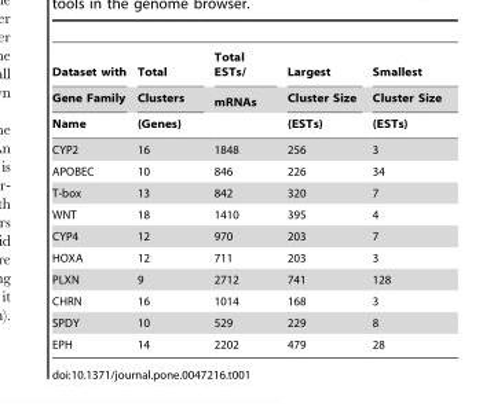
<table><thead><tr><td rowspan="3">Dataset with Gene Family Name</td><td rowspan="3">Total Clusters (Genes)</td><td rowspan="3">Total ESTs/ mRNAs</td><td rowspan="3">Largest Cluster Size (ESTs)</td><td rowspan="3">Smallest Cluster Size (ESTs)</td></tr><tr></tr><tr></tr></thead><tbody><tr><td>CYP2</td><td>16</td><td>1848</td><td>256</td><td>3</td></tr><tr><td>APOBEC</td><td>10</td><td>846</td><td>226</td><td>34</td></tr><tr><td>T-box</td><td>13</td><td>842</td><td>320</td><td>7</td></tr><tr><td>WNT</td><td>18</td><td>1410</td><td>395</td><td>4</td></tr><tr><td>CYP4</td><td>12</td><td>970</td><td>203</td><td>7</td></tr><tr><td>HOXA</td><td>12</td><td>711</td><td>203</td><td>3</td></tr><tr><td>PLXN</td><td>9</td><td>2712</td><td>741</td><td>128</td></tr><tr><td>CHRN</td><td>16</td><td>1014</td><td>168</td><td>3</td></tr><tr><td>SPDY</td><td>10</td><td>529</td><td>229</td><td>8</td></tr><tr><td>EPH</td><td>14</td><td>2202</td><td>479</td><td>28</td></tr></tbody></table>